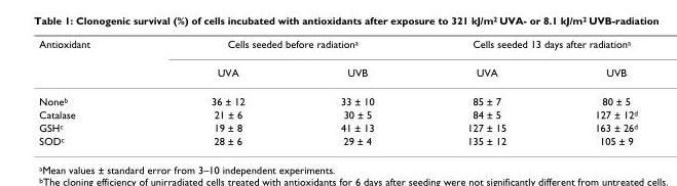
<table><thead><tr><td rowspan="2">Antioxidant</td><td colspan="2">Cells seeded before radiation<sup>a</sup></td><td colspan="2">Cells seeded 13 days after radiation<sup>a</sup></td></tr><tr><td>UVA</td><td>UVB</td><td>UVA</td><td>UVB</td></tr></thead><tbody><tr><td>None<sup>b</sup></td><td>36 ± 12</td><td>33 ± 10</td><td>85 ± 7</td><td>80 ± 5</td></tr><tr><td>Catalase</td><td>21 ± 6</td><td>30 ± 5</td><td>84 ± 5</td><td>127 ± 12<sup>d</sup></td></tr><tr><td>GSH<sup>c</sup></td><td>19 ± 8</td><td>41 ± 13</td><td>127 ± 15</td><td>163 ± 26<sup>d</sup></td></tr><tr><td>SOD<sup>c</sup></td><td>28 ± 6</td><td>29 ± 4</td><td>135 ± 12</td><td>105 ± 9</td></tr></tbody></table>